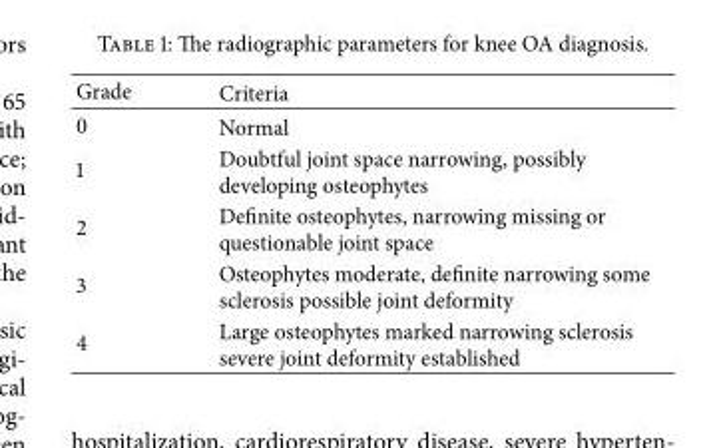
<table><tbody><tr><td>Grade</td><td>Criteria</td></tr><tr><td>0</td><td>Normal</td></tr><tr><td>1</td><td>Doubtful joint space narrowing, possibly developing osteophytes</td></tr><tr><td>2</td><td>Definite osteophytes, narrowing missing or questionable joint space</td></tr><tr><td>3</td><td>Osteophytes moderate, definite narrowing some sclerosis possible joint deformity</td></tr><tr><td>4</td><td>Large osteophytes marked narrowing sclerosis severe joint deformity established</td></tr></tbody></table>